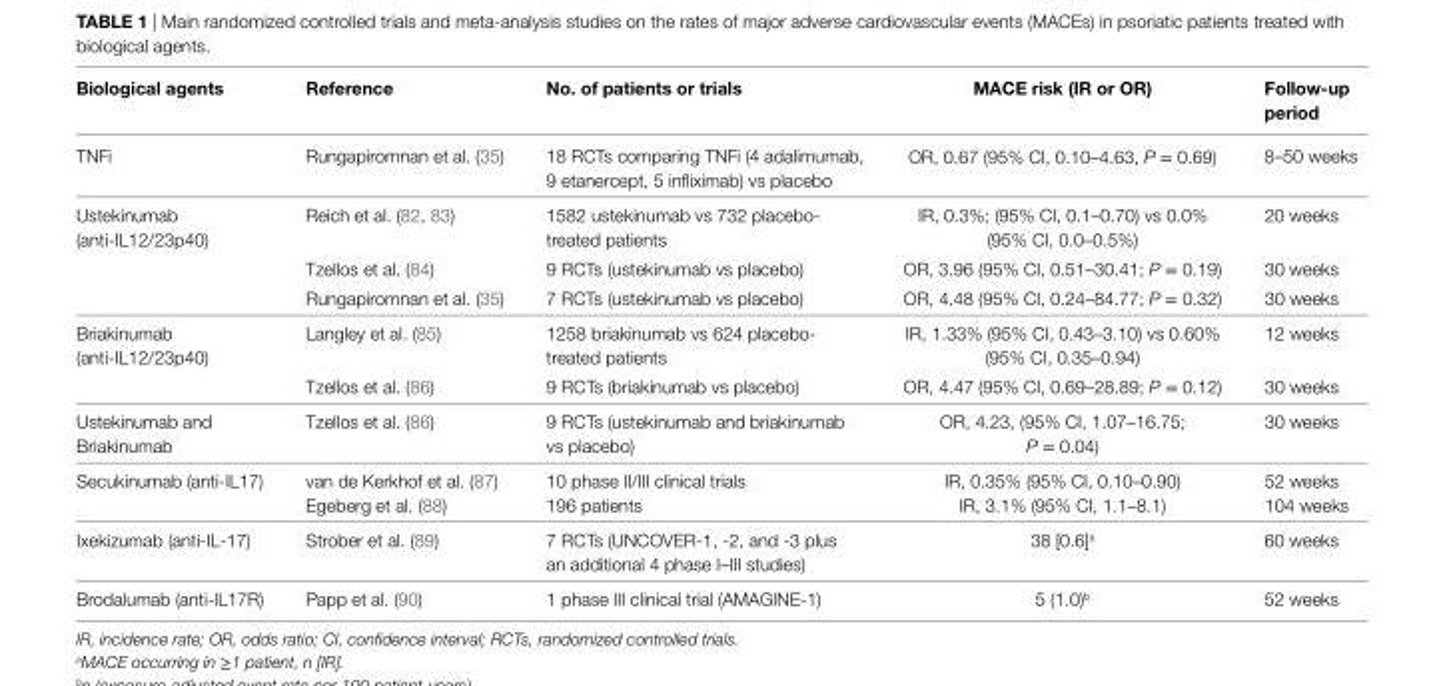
<table><thead><tr><td>Biological agents</td><td>Reference</td><td>No. of patients or trials</td><td>MACe risk (iR or OR)</td><td>Follow-up period</td></tr></thead><tbody><tr><td>TNFi</td><td>Rungapiromnan et al. (35)</td><td>18 RCTs comparing TNFi (4 adalimumab, 9 etanercept, 5 infliximab) vs placebo</td><td>OR, 0.67 (95% CI, 0.10–4.63, P = 0.69)</td><td>8–50 weeks</td></tr><tr><td rowspan="3">Ustekinumab (anti-IL12/23p40)</td><td>Reich et al. (82, 83)</td><td>1582 ustekinumab vs 732 placebo- treated patients</td><td>IR, 0.3%; (95% CI, 0.1–0.70) vs 0.0% (95% CI, 0.0–0.5%)</td><td>20 weeks</td></tr><tr><td>Tzellos et al. (84)</td><td>9 RCTs (ustekinumab vs placebo)</td><td>OR, 3.96 (95% CI, 0.51–30.41; P = 0.19)</td><td>30 weeks</td></tr><tr><td>Rungapiromnan et al. (35)</td><td>7 RCTs (ustekinumab vs placebo)</td><td>OR, 4.48 (95% CI, 0.24–84.77; P = 0.32)</td><td>30 weeks</td></tr><tr><td rowspan="2">Briakinumab (anti-IL12/23p40)</td><td>Langley et al. (85)</td><td>1258 briakinumab vs 624 placebo- treated patients</td><td>IR, 1.33% (95% CI, 0.43–3.10) vs 0.60% (95% CI, 0.35–0.94)</td><td>12 weeks</td></tr><tr><td>Tzellos et al. (86)</td><td>9 RCTs (briakinumab vs placebo)</td><td>OR, 4.47 (95% CI, 0.69–28.89; P = 0.12)</td><td>30 weeks</td></tr><tr><td>Ustekinumab and Briakinumab</td><td>Tzellos et al. (86)</td><td>9 RCTs (ustekinumab and briakinumab vs placebo)</td><td>OR, 4.23, (95% CI, 1.07–16.75; P = 0.04)</td><td>30 weeks</td></tr><tr><td rowspan="2">Secukinumab (anti-IL17)</td><td>van de Kerkhof et al. (87)</td><td>10 phase II/III clinical trials</td><td>IR, 0.35% (95% CI, 0.10–0.90)</td><td>52 weeks</td></tr><tr><td>Egeberg et al. (88)</td><td>196 patients</td><td>IR, 3.1% (95% CI, 1.1–8.1)</td><td>104 weeks</td></tr><tr><td>Ixekizumab (anti-IL-17)</td><td>Strober et al. (89)</td><td>7 RCTs (UNCOVER-1, -2, and -3 plus an additional 4 phase I–III studies)</td><td>38 [0.6]<sup>a</sup></td><td>60 weeks</td></tr><tr><td>Brodalumab (anti-IL17R)</td><td>Papp et al. (90)</td><td>1 phase III clinical trial (AMAGINE-1)</td><td>5 (1.0)<sup>b</sup></td><td>52 weeks</td></tr></tbody></table>